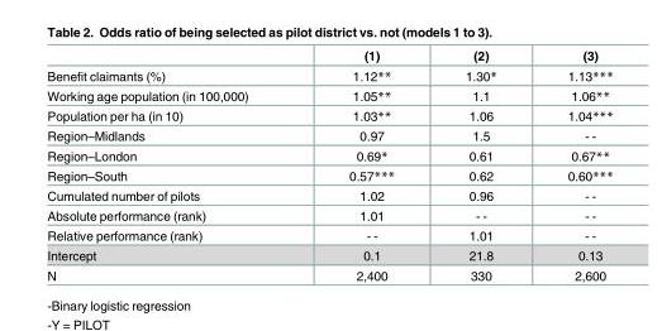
<table><thead><tr><td></td><td>(1)</td><td>(2)</td><td>(3)</td></tr></thead><tbody><tr><td>Benefit claimants (%)</td><td>1.12**</td><td>1.30*</td><td>1.13***</td></tr><tr><td>Working age population (in 100,000)</td><td>1.05**</td><td>1.1</td><td>1.06**</td></tr><tr><td>Population per ha (in 10)</td><td>1.03**</td><td>1.06</td><td>1.04***</td></tr><tr><td>Region–Midlands</td><td>0.97</td><td>1.5</td><td>- -</td></tr><tr><td>Region–London</td><td>0.69*</td><td>0.61</td><td>0.67**</td></tr><tr><td>Region–South</td><td>0.57***</td><td>0.62</td><td>0.60***</td></tr><tr><td>Cumulated number of pilots</td><td>1.02</td><td>0.96</td><td>- -</td></tr><tr><td>Absolute performance (rank)</td><td>1.01</td><td>- -</td><td>- -</td></tr><tr><td>Relative performance (rank)</td><td>- -</td><td>1.01</td><td>- -</td></tr><tr><td>Intercept</td><td>0.1</td><td>21.8</td><td>0.13</td></tr><tr><td>N</td><td>2,400</td><td>330</td><td>2,600</td></tr></tbody></table>